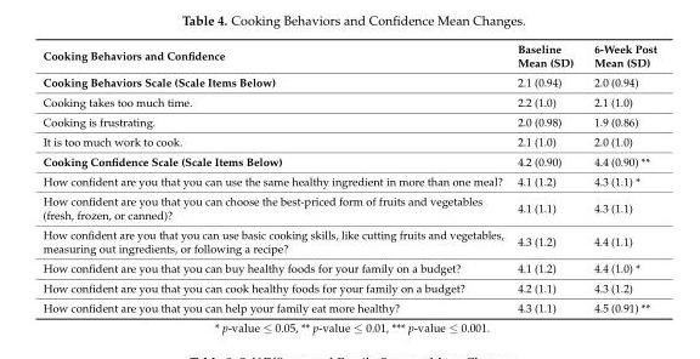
<table><thead><tr><td>Cooking Behaviors and Confidence</td><td>Baseline Mean (SD)</td><td>6-Week Post Mean (SD)</td></tr></thead><tbody><tr><td>Cooking Behaviors Scale (Scale Items Below)</td><td>2.1 (0.94)</td><td>2.0 (0.94)</td></tr><tr><td>Cooking takes too much time.</td><td>2.2 (1.0)</td><td>2.1 (1.0)</td></tr><tr><td>Cooking is frustrating.</td><td>2.0 (0.98)</td><td>1.9 (0.86)</td></tr><tr><td>It is too much work to cook.</td><td>2.1 (1.0)</td><td>2.0 (1.0)</td></tr><tr><td>Cooking Confidence Scale (Scale Items Below)</td><td>4.2 (0.90)</td><td>4.4 (0.90) **</td></tr><tr><td>How confident are you that you can use the same healthy ingredient in more than one meal?</td><td>4.1 (1.2)</td><td>4.3 (1.1) *</td></tr><tr><td>How confident are you that you can choose the best-priced form of fruits and vegetables (fresh, frozen, or canned)?</td><td>4.1 (1.1)</td><td>4.3 (1.1)</td></tr><tr><td>How confident are you that you can use basic cooking skills, like cutting fruits and vegetables, measuring out ingredients, or following a recipe?</td><td>4.3 (1.2)</td><td>4.4 (1.1)</td></tr><tr><td>How confident are you that you can buy healthy foods for your family on a budget?</td><td>4.1 (1.2)</td><td>4.4 (1.0) *</td></tr><tr><td>How confident are you that you can cook healthy foods for your family on a budget?</td><td>4.2 (1.1)</td><td>4.3 (1.2)</td></tr><tr><td>How confident are you that you can help your family eat more healthy?</td><td>4.3 (1.1)</td><td>4.5 (0.91) **</td></tr></tbody></table>